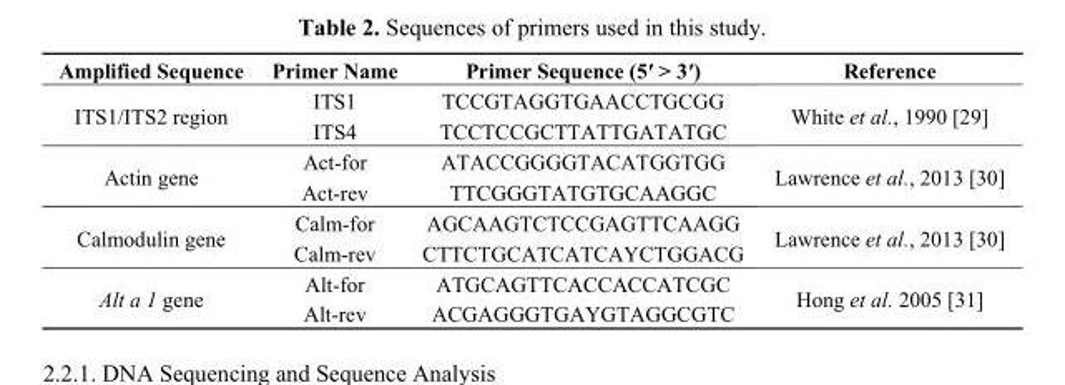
<table><thead><tr><td>Amplified Sequence</td><td>Primer Name</td><td>Primer Sequence (5′ &gt; 3′)</td><td>Reference</td></tr></thead><tbody><tr><td rowspan="2">ITS1/ITS2 region</td><td>ITS1</td><td>TCCGTAGGTGAACCTGCGG</td><td rowspan="2">White et al., 1990 [29]</td></tr><tr><td>ITS4</td><td>TCCTCCGCTTATTGATATGC</td></tr><tr><td rowspan="2">Actin gene</td><td>Act-for</td><td>ATACCGGGGTACATGGTGG</td><td rowspan="2">Lawrence et al., 2013 [30]</td></tr><tr><td>Act-rev</td><td>TTCGGGTATGTGCAAGGC</td></tr><tr><td rowspan="2">Calmodulin gene</td><td>Calm-for</td><td>AGCAAGTCTCCGAGTTCAAGG</td><td rowspan="2">Lawrence et al., 2013 [30]</td></tr><tr><td>Calm-rev</td><td>CTTCTGCATCATCAYCTGGACG</td></tr><tr><td rowspan="2">Alt a 1 gene</td><td>Alt-for</td><td>ATGCAGTTCACCACCATCGC</td><td rowspan="2">Hong et al. 2005 [31]</td></tr><tr><td>Alt-rev</td><td>ACGAGGGTGAYGTAGGCGTC</td></tr></tbody></table>